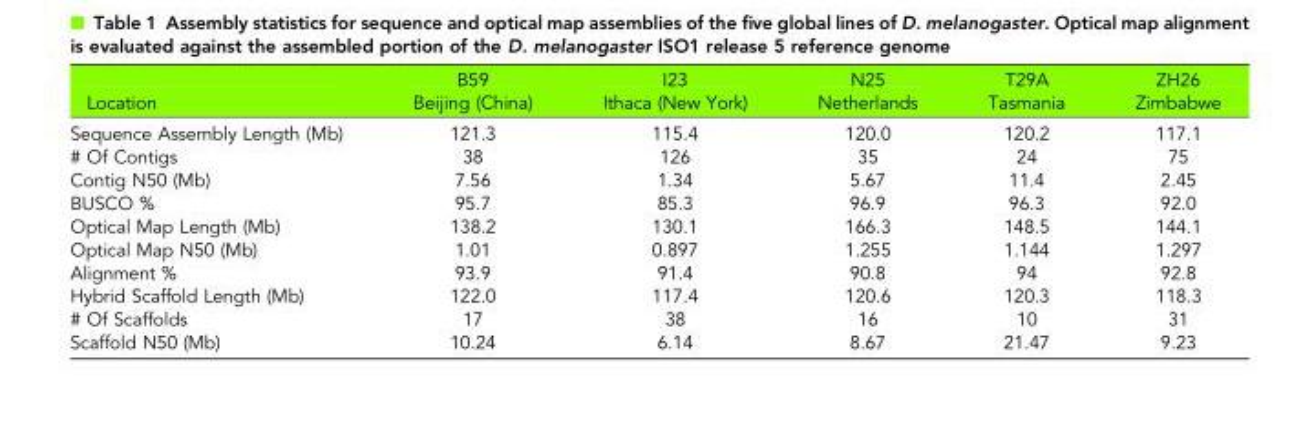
<table><thead><tr><td rowspan="2">Location</td><td rowspan="2">B59 Beijing (China)</td><td rowspan="2">I23 Ithaca (New York)</td><td rowspan="2">N25 Netherlands</td><td rowspan="2">T29A Tasmania</td><td rowspan="2">ZH26 Zimbabwe</td></tr><tr></tr></thead><tbody><tr><td>Sequence Assembly Length (Mb)</td><td>121.3</td><td>115.4</td><td>120.0</td><td>120.2</td><td>117.1</td></tr><tr><td># Of Contigs</td><td>38</td><td>126</td><td>35</td><td>24</td><td>75</td></tr><tr><td>Contig N50 (Mb)</td><td>7.56</td><td>1.34</td><td>5.67</td><td>11.4</td><td>2.45</td></tr><tr><td>BUSCO %</td><td>95.7</td><td>85.3</td><td>96.9</td><td>96.3</td><td>92.0</td></tr><tr><td>Optical Map Length (Mb)</td><td>138.2</td><td>130.1</td><td>166.3</td><td>148.5</td><td>144.1</td></tr><tr><td>Optical Map N50 (Mb)</td><td>1.01</td><td>0.897</td><td>1.255</td><td>1.144</td><td>1.297</td></tr><tr><td>Alignment %</td><td>93.9</td><td>91.4</td><td>90.8</td><td>94</td><td>92.8</td></tr><tr><td>Hybrid Scaffold Length (Mb)</td><td>122.0</td><td>117.4</td><td>120.6</td><td>120.3</td><td>118.3</td></tr><tr><td># Of Scaffolds</td><td>17</td><td>38</td><td>16</td><td>10</td><td>31</td></tr><tr><td>Scaffold N50 (Mb)</td><td>10.24</td><td>6.14</td><td>8.67</td><td>21.47</td><td>9.23</td></tr></tbody></table>